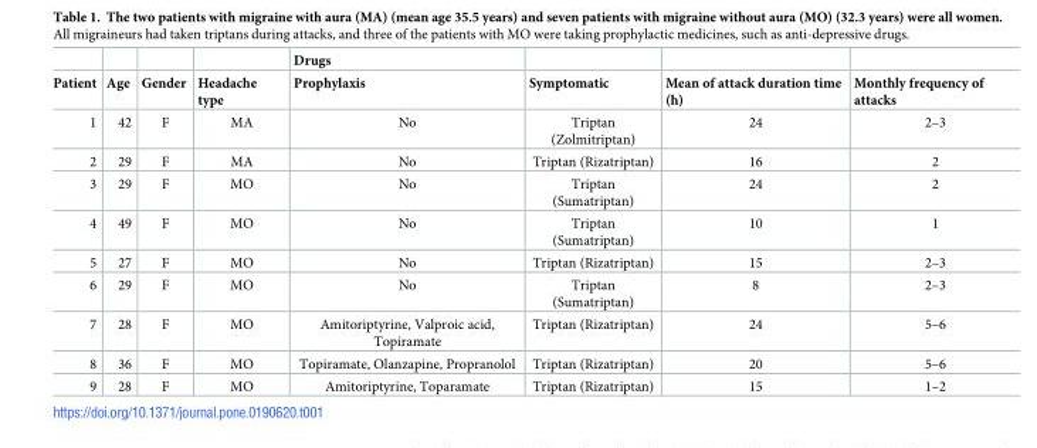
<table><thead><tr><td rowspan="2">Patient</td><td rowspan="2">Age</td><td rowspan="2">Gender</td><td rowspan="2">Headache type</td><td rowspan="2">Drugs Prophylaxis</td><td rowspan="2">Symptomatic</td><td rowspan="2">Mean of attack duration time (h)</td><td rowspan="2">Monthly frequency of attacks</td></tr><tr></tr></thead><tbody><tr><td>1</td><td>42</td><td>F</td><td>MA</td><td>No</td><td>Triptan (Zolmitriptan)</td><td>24</td><td>2–3</td></tr><tr><td>2</td><td>29</td><td>F</td><td>MA</td><td>No</td><td>Triptan (Rizatriptan)</td><td>16</td><td>2</td></tr><tr><td>3</td><td>29</td><td>F</td><td>MO</td><td>No</td><td>Triptan (Sumatriptan)</td><td>24</td><td>2</td></tr><tr><td>4</td><td>49</td><td>F</td><td>MO</td><td>No</td><td>Triptan (Sumatriptan)</td><td>10</td><td>1</td></tr><tr><td>5</td><td>27</td><td>F</td><td>MO</td><td>No</td><td>Triptan (Rizatriptan)</td><td>15</td><td>2–3</td></tr><tr><td>6</td><td>29</td><td>F</td><td>MO</td><td>No</td><td>Triptan (Sumatriptan)</td><td>8</td><td>2–3</td></tr><tr><td>7</td><td>28</td><td>F</td><td>MO</td><td>Amitoriptyrine, Valproic acid, Topiramate</td><td>Triptan (Rizatriptan)</td><td>24</td><td>5–6</td></tr><tr><td>8</td><td>36</td><td>F</td><td>MO</td><td>Topiramate, Olanzapine, Propranolol</td><td>Triptan (Rizatriptan)</td><td>20</td><td>5–6</td></tr><tr><td>9</td><td>28</td><td>F</td><td>MO</td><td>Amitoriptyrine, Toparamate</td><td>Triptan (Rizatriptan)</td><td>15</td><td>1–2</td></tr></tbody></table>